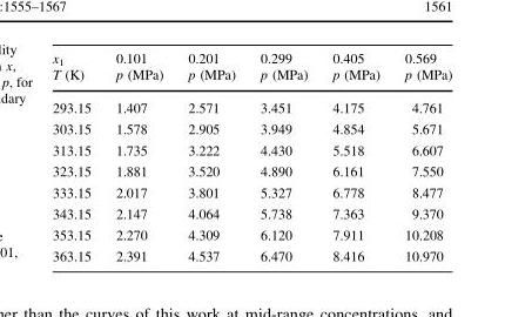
<table><thead><tr><td rowspan="2">x<sub>1</sub> T (K)</td><td rowspan="2">0.101 p (MPa)</td><td rowspan="2">0.201 p (MPa)</td><td rowspan="2">0.299 p (MPa)</td><td rowspan="2">0.405 p (MPa)</td><td rowspan="2">0.569 p (MPa)</td></tr><tr></tr></thead><tbody><tr><td>293.15</td><td>1.407</td><td>2.571</td><td>3.451</td><td>4.175</td><td>4.761</td></tr><tr><td>303.15</td><td>1.578</td><td>2.905</td><td>3.949</td><td>4.854</td><td>5.671</td></tr><tr><td>313.15</td><td>1.735</td><td>3.222</td><td>4.430</td><td>5.518</td><td>6.607</td></tr><tr><td>323.15</td><td>1.881</td><td>3.520</td><td>4.890</td><td>6.161</td><td>7.550</td></tr><tr><td>333.15</td><td>2.017</td><td>3.801</td><td>5.327</td><td>6.778</td><td>8.477</td></tr><tr><td>343.15</td><td>2.147</td><td>4.064</td><td>5.738</td><td>7.363</td><td>9.370</td></tr><tr><td>353.15</td><td>2.270</td><td>4.309</td><td>6.120</td><td>7.911</td><td>10.208</td></tr><tr><td>363.15</td><td>2.391</td><td>4.537</td><td>6.470</td><td>8.416</td><td>10.970</td></tr></tbody></table>